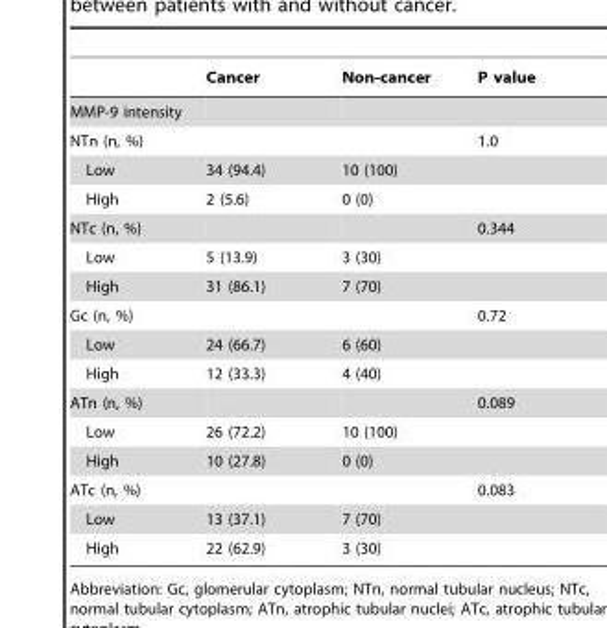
<table><thead><tr><td></td><td>Cancer</td><td>Non-cancer</td><td>P value</td></tr></thead><tbody><tr><td colspan="4">MMP-9 intensity</td></tr><tr><td>NTn (n, %)</td><td></td><td></td><td>1.0</td></tr><tr><td>Low</td><td>34 (94.4)</td><td>10 (100)</td><td></td></tr><tr><td>High</td><td>2 (5.6)</td><td>0 (0)</td><td></td></tr><tr><td>NTc (n, %)</td><td></td><td></td><td>0.344</td></tr><tr><td>Low</td><td>5 (13.9)</td><td>3 (30)</td><td></td></tr><tr><td>High</td><td>31 (86.1)</td><td>7 (70)</td><td></td></tr><tr><td>Gc (n, %)</td><td></td><td></td><td>0.72</td></tr><tr><td>Low</td><td>24 (66.7)</td><td>6 (60)</td><td></td></tr><tr><td>High</td><td>12 (33.3)</td><td>4 (40)</td><td></td></tr><tr><td>ATn (n, %)</td><td></td><td></td><td>0.089</td></tr><tr><td>Low</td><td>26 (72.2)</td><td>10 (100)</td><td></td></tr><tr><td>High</td><td>10 (27.8)</td><td>0 (0)</td><td></td></tr><tr><td>ATc (n, %)</td><td></td><td></td><td>0.083</td></tr><tr><td>Low</td><td>13 (37.1)</td><td>7 (70)</td><td></td></tr><tr><td>High</td><td>22 (62.9)</td><td>3 (30)</td><td></td></tr></tbody></table>